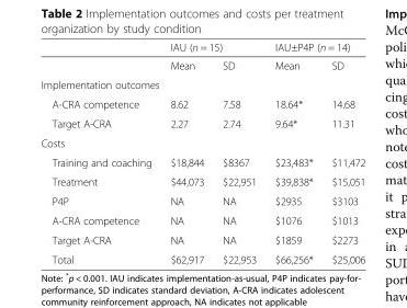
<table><thead><tr><td rowspan="2"></td><td colspan="2">IAU (n = 15)</td><td colspan="2">IAU±P4P (n = 14)</td></tr><tr><td>Mean</td><td>SD</td><td>Mean</td><td>SD</td></tr></thead><tbody><tr><td colspan="5">Implementation outcomes</td></tr><tr><td>A-CRA competence</td><td>8.62</td><td>7.58</td><td>18.64*</td><td>14.68</td></tr><tr><td>Target A-CRA</td><td>2.27</td><td>2.74</td><td>9.64*</td><td>11.31</td></tr><tr><td colspan="5">Costs</td></tr><tr><td>Training and coaching</td><td>$18,844</td><td>$8367</td><td>$23,483*</td><td>$11,472</td></tr><tr><td>Treatment</td><td>$44,073</td><td>$22,951</td><td>$39,838*</td><td>$15,051</td></tr><tr><td>P4P</td><td>NA</td><td>NA</td><td>$2935</td><td>$3103</td></tr><tr><td>A-CRA competence</td><td>NA</td><td>NA</td><td>$1076</td><td>$1013</td></tr><tr><td>Target A-CRA</td><td>NA</td><td>NA</td><td>$1859</td><td>$2273</td></tr><tr><td>Total</td><td>$62,917</td><td>$22,953</td><td>$66,256*</td><td>$25,006</td></tr></tbody></table>